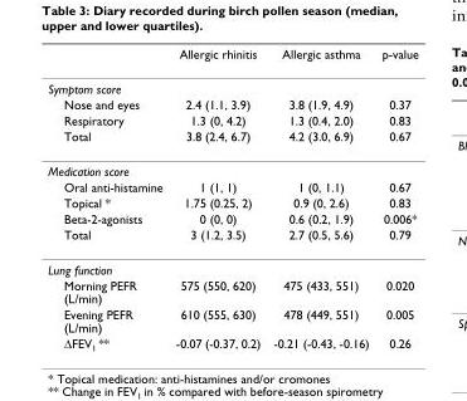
<table><thead><tr><td></td><td>Allergic rhinitis</td><td>Allergic asthma</td><td>p-value</td></tr></thead><tbody><tr><td colspan="4">Symptom score</td></tr><tr><td>Nose and eyes</td><td>2.4 (1.1, 3.9)</td><td>3.8 (1.9, 4.9)</td><td>0.37</td></tr><tr><td>Respiratory</td><td>1.3 (0, 4.2)</td><td>1.3 (0.4, 2.0)</td><td>0.83</td></tr><tr><td>Total</td><td>3.8 (2.4, 6.7)</td><td>4.2 (3.0, 6.9)</td><td>0.67</td></tr><tr><td colspan="4">Medication score</td></tr><tr><td>Oral anti-histamine</td><td>1 (1, 1)</td><td>1 (0, 1.1)</td><td>0.67</td></tr><tr><td>Topical *</td><td>1.75 (0.25, 2)</td><td>0.9 (0, 2.6)</td><td>0.83</td></tr><tr><td>Beta-2-agonists</td><td>0 (0, 0)</td><td>0.6 (0.2, 1.9)</td><td>0.006*</td></tr><tr><td>Total</td><td>3 (1.2, 3.5)</td><td>2.7 (0.5, 5.6)</td><td>0.79</td></tr><tr><td colspan="4">Lung function</td></tr><tr><td>Morning PEFR (L/min)</td><td>575 (550, 620)</td><td>475 (433, 551)</td><td>0.020</td></tr><tr><td>Evening PEFR (L/min)</td><td>610 (555, 630)</td><td>478 (449, 551)</td><td>0.005</td></tr><tr><td>ΔFEV<sub>1</sub> **</td><td>-0.07 (-0.37, 0.2)</td><td>-0.21 (-0.43, -0.16)</td><td>0.26</td></tr></tbody></table>